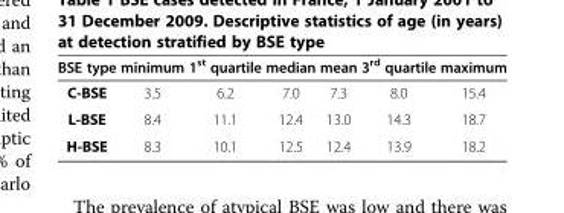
<table><thead><tr><td>BSE type</td><td>minimum</td><td>1<sup>st</sup> quartile</td><td>median</td><td>mean</td><td>3<sup>rd</sup> quartile</td><td>maximum</td></tr></thead><tbody><tr><td>C-BSE</td><td>3.5</td><td>6.2</td><td>7.0</td><td>7.3</td><td>8.0</td><td>15.4</td></tr><tr><td>L-BSE</td><td>8.4</td><td>11.1</td><td>12.4</td><td>13.0</td><td>14.3</td><td>18.7</td></tr><tr><td>H-BSE</td><td>8.3</td><td>10.1</td><td>12.5</td><td>12.4</td><td>13.9</td><td>18.2</td></tr></tbody></table>